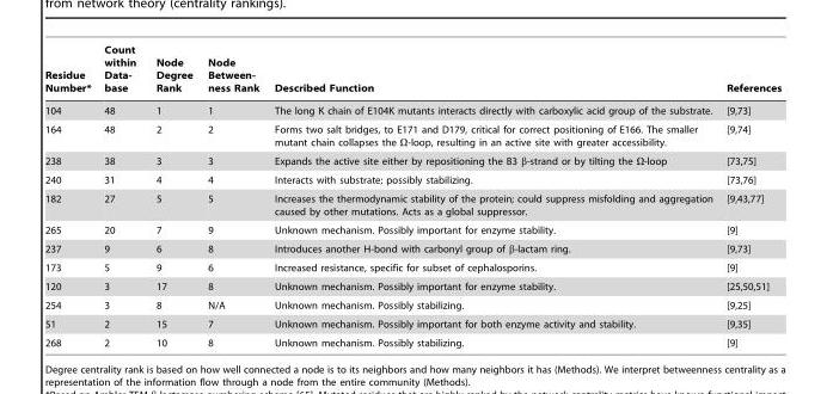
<table><thead><tr><td>Residue Number*</td><td>Count within Data- base</td><td>Node Degree Rank</td><td>Node Between- ness Rank</td><td>Described Function</td><td>References</td></tr></thead><tbody><tr><td>104</td><td>48</td><td>1</td><td>1</td><td>The long K chain of E104K mutants interacts directly with carboxylic acid group of the substrate.</td><td>[9,73]</td></tr><tr><td>164</td><td>48</td><td>2</td><td>2</td><td>Forms two salt bridges, to E171 and D179, critical for correct positioning of E166. The smaller mutant chain collapses the Ω-loop, resulting in an active site with greater accessibility.</td><td>[9,74]</td></tr><tr><td>238</td><td>38</td><td>3</td><td>3</td><td>Expands the active site either by repositioning the B3 β-strand or by tilting the Ω-loop</td><td>[73,75]</td></tr><tr><td>240</td><td>31</td><td>4</td><td>4</td><td>Interacts with substrate; possibly stabilizing.</td><td>[73,76]</td></tr><tr><td>182</td><td>27</td><td>5</td><td>5</td><td>Increases the thermodynamic stability of the protein; could suppress misfolding and aggregation caused by other mutations. Acts as a global suppressor.</td><td>[9,43,77]</td></tr><tr><td>265</td><td>20</td><td>7</td><td>9</td><td>Unknown mechanism. Possibly important for enzyme stability.</td><td>[9]</td></tr><tr><td>237</td><td>9</td><td>6</td><td>8</td><td>Introduces another H-bond with carbonyl group of β-lactam ring.</td><td>[9,73]</td></tr><tr><td>173</td><td>5</td><td>9</td><td>6</td><td>Increased resistance, specific for subset of cephalosporins.</td><td>[9]</td></tr><tr><td>120</td><td>3</td><td>17</td><td>8</td><td>Unknown mechanism. Possibly important for enzyme stability.</td><td>[25,50,51]</td></tr><tr><td>254</td><td>3</td><td>8</td><td>N/A</td><td>Unknown mechanism. Possibly stabilizing.</td><td>[9,25]</td></tr><tr><td>51</td><td>2</td><td>15</td><td>7</td><td>Unknown mechanism. Possibly important for both enzyme activity and stability.</td><td>[9,35]</td></tr><tr><td>268</td><td>2</td><td>10</td><td>8</td><td>Unknown mechanism. Possibly stabilizing.</td><td>[9]</td></tr></tbody></table>